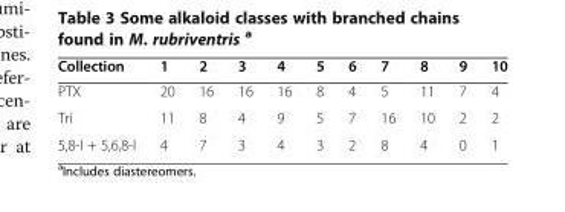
<table><thead><tr><td>Collection</td><td>1</td><td>2</td><td>3</td><td>4</td><td>5</td><td>6</td><td>7</td><td>8</td><td>9</td><td>10</td></tr></thead><tbody><tr><td>PTX</td><td>20</td><td>16</td><td>16</td><td>16</td><td>8</td><td>4</td><td>5</td><td>11</td><td>7</td><td>4</td></tr><tr><td>Tri</td><td>11</td><td>8</td><td>4</td><td>9</td><td>5</td><td>7</td><td>16</td><td>10</td><td>2</td><td>2</td></tr><tr><td>5,8-I + 5,6,8-I</td><td>4</td><td>7</td><td>3</td><td>4</td><td>3</td><td>2</td><td>8</td><td>4</td><td>0</td><td>1</td></tr></tbody></table>